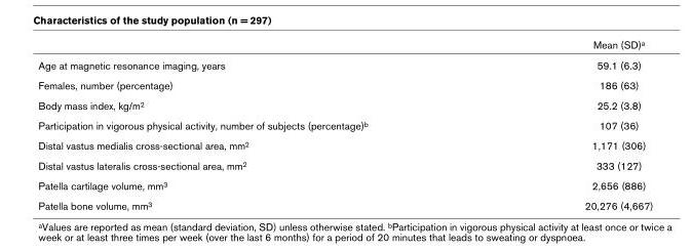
<table><thead><tr><td></td><td>Mean (SD)<sup>a</sup></td></tr></thead><tbody><tr><td>Age at magnetic resonance imaging, years</td><td>59.1 (6.3)</td></tr><tr><td>Females, number (percentage)</td><td>186 (63)</td></tr><tr><td>Body mass index, kg/m<sup>2</sup></td><td>25.2 (3.8)</td></tr><tr><td>Participation in vigorous physical activity, number of subjects (percentage)<sup>b</sup></td><td>107 (36)</td></tr><tr><td>Distal vastus medialis cross-sectional area, mm<sup>2</sup></td><td>1,171 (306)</td></tr><tr><td>Distal vastus lateralis cross-sectional area, mm<sup>2</sup></td><td>333 (127)</td></tr><tr><td>Patella cartilage volume, mm<sup>3</sup></td><td>2,656 (886)</td></tr><tr><td>Patella bone volume, mm<sup>3</sup></td><td>20,276 (4,667)</td></tr></tbody></table>